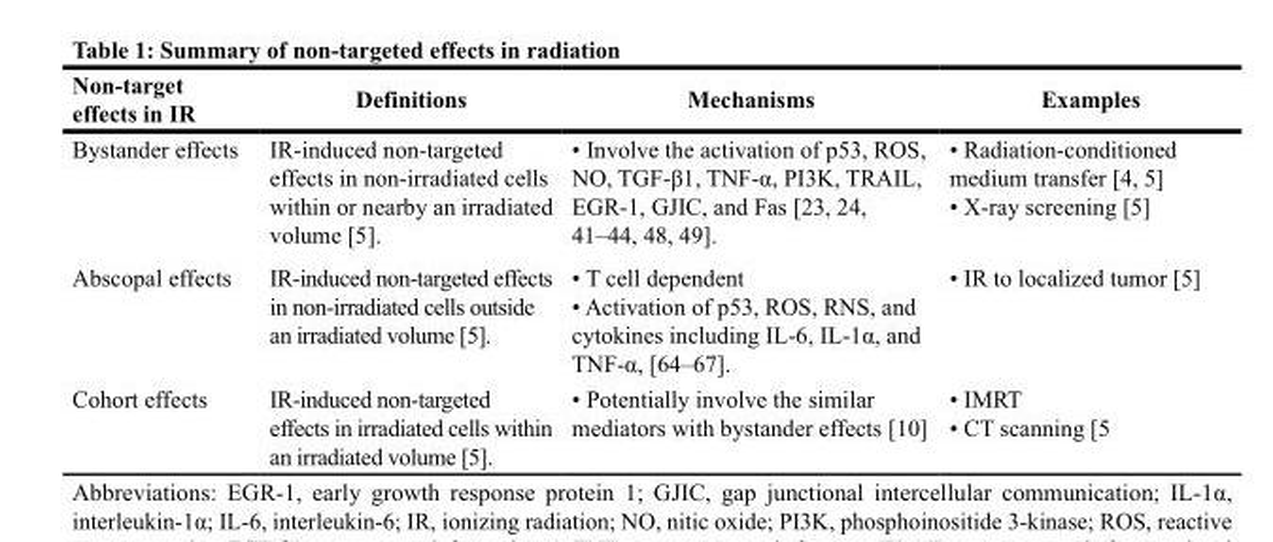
<table><thead><tr><td>Non-target effects in IR</td><td>Definitions</td><td>Mechanisms</td><td>Examples</td></tr></thead><tbody><tr><td>Bystander effects</td><td>IR-induced non-targeted effects in non-irradiated cells within or nearby an irradiated volume [5].</td><td>• Involve the activation of p53, ROS, NO, TGF-β1, TNF-α, PI3K, TRAIL, EGR-1, GJIC, and Fas [23, 24, 41–44, 48, 49].</td><td>• Radiation-conditioned medium transfer [4, 5] • X-ray screening [5]</td></tr><tr><td>Abscopal effects</td><td>IR-induced non-targeted effects in non-irradiated cells outside an irradiated volume [5].</td><td>• T cell dependent • Activation of p53, ROS, RNS, and cytokines including IL-6, IL-1α, and TNF-α, [64–67].</td><td>• IR to localized tumor [5]</td></tr><tr><td>Cohort effects</td><td>IR-induced non-targeted effects in irradiated cells within an irradiated volume [5].</td><td>• Potentially involve the similar mediators with bystander effects [10]</td><td>• IMRT • CT scanning [5</td></tr></tbody></table>